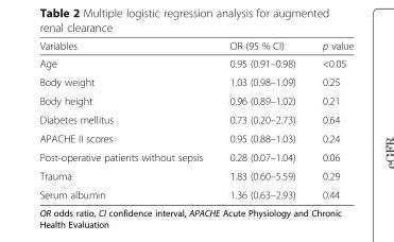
<table><thead><tr><td>Variables</td><td>OR (95 % CI)</td><td>p value</td></tr></thead><tbody><tr><td>Age</td><td>0.95 (0.91–0.98)</td><td>&lt;0.05</td></tr><tr><td>Body weight</td><td>1.03 (0.98–1.09)</td><td>0.25</td></tr><tr><td>Body height</td><td>0.96 (0.89–1.02)</td><td>0.21</td></tr><tr><td>Diabetes mellitus</td><td>0.73 (0.20–2.73)</td><td>0.64</td></tr><tr><td>APACHE II scores</td><td>0.95 (0.88–1.03)</td><td>0.24</td></tr><tr><td>Post-operative patients without sepsis</td><td>0.28 (0.07–1.04)</td><td>0.06</td></tr><tr><td>Trauma</td><td>1.83 (0.60–5.59)</td><td>0.29</td></tr><tr><td>Serum albumin</td><td>1.36 (0.63–2.93)</td><td>0.44</td></tr></tbody></table>